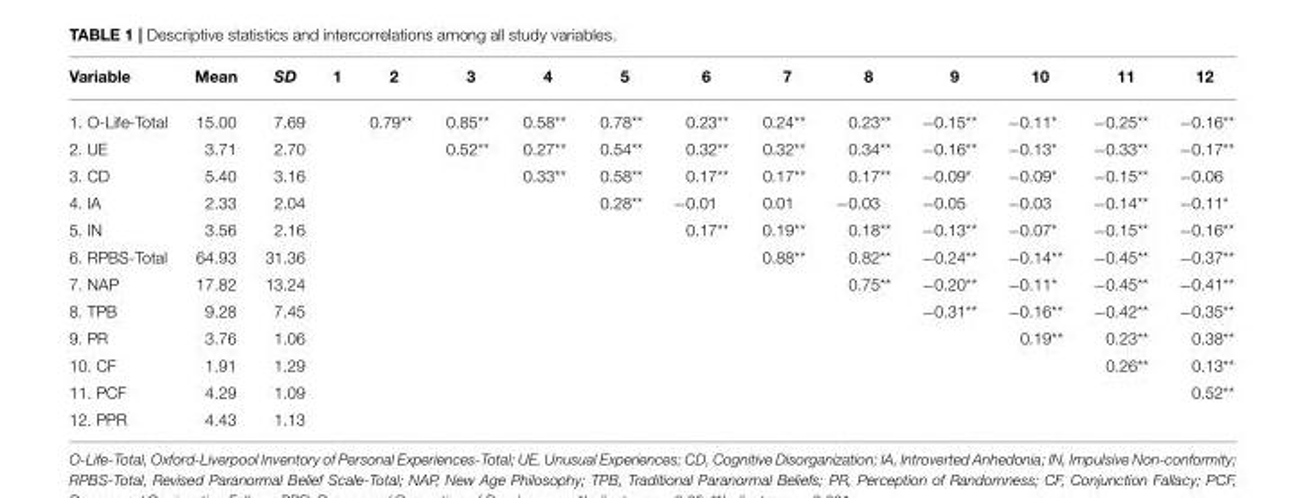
<table><thead><tr><td>Variable</td><td>Mean</td><td>SD</td><td>1</td><td>2</td><td>3</td><td>4</td><td>5</td><td>6</td><td>7</td><td>8</td><td>9</td><td>10</td><td>11</td><td>12</td></tr></thead><tbody><tr><td>1. O-Life-Total</td><td>15.00</td><td>7.69</td><td></td><td>0.79**</td><td>0.85**</td><td>0.58**</td><td>0.78**</td><td>0.23**</td><td>0.24**</td><td>0.23**</td><td>−0.15**</td><td>−0.11*</td><td>−0.25**</td><td>−0.16**</td></tr><tr><td>2. UE</td><td>3.71</td><td>2.70</td><td></td><td></td><td>0.52**</td><td>0.27**</td><td>0.54**</td><td>0.32**</td><td>0.32**</td><td>0.34**</td><td>−0.16**</td><td>−0.13*</td><td>−0.33**</td><td>−0.17**</td></tr><tr><td>3. CD</td><td>5.40</td><td>3.16</td><td></td><td></td><td></td><td>0.33**</td><td>0.58**</td><td>0.17**</td><td>0.17**</td><td>0.17**</td><td>−0.09*</td><td>−0.09*</td><td>−0.15**</td><td>−0.06</td></tr><tr><td>4. IA</td><td>2.33</td><td>2.04</td><td></td><td></td><td></td><td></td><td>0.28**</td><td>−0.01</td><td>0.01</td><td>−0.03</td><td>−0.05</td><td>−0.03</td><td>−0.14**</td><td>−0.11*</td></tr><tr><td>5. IN</td><td>3.56</td><td>2.16</td><td></td><td></td><td></td><td></td><td></td><td>0.17**</td><td>0.19**</td><td>0.18**</td><td>−0.13**</td><td>−0.07*</td><td>−0.15**</td><td>−0.16**</td></tr><tr><td>6. RPBS-Total</td><td>64.93</td><td>31.36</td><td></td><td></td><td></td><td></td><td></td><td></td><td>0.88**</td><td>0.82**</td><td>−0.24**</td><td>−0.14**</td><td>−0.45**</td><td>−0.37**</td></tr><tr><td>7. NAP</td><td>17.82</td><td>13.24</td><td></td><td></td><td></td><td></td><td></td><td></td><td></td><td>0.75**</td><td>−0.20**</td><td>−0.11*</td><td>−0.45**</td><td>−0.41**</td></tr><tr><td>8. TPB</td><td>9.28</td><td>7.45</td><td></td><td></td><td></td><td></td><td></td><td></td><td></td><td></td><td>−0.31**</td><td>−0.16**</td><td>−0.42**</td><td>−0.35**</td></tr><tr><td>9. PR</td><td>3.76</td><td>1.06</td><td></td><td></td><td></td><td></td><td></td><td></td><td></td><td></td><td></td><td>0.19**</td><td>0.23**</td><td>0.38**</td></tr><tr><td>10. CF</td><td>1.91</td><td>1.29</td><td></td><td></td><td></td><td></td><td></td><td></td><td></td><td></td><td></td><td></td><td>0.26**</td><td>0.13**</td></tr><tr><td>11. PCF</td><td>4.29</td><td>1.09</td><td></td><td></td><td></td><td></td><td></td><td></td><td></td><td></td><td></td><td></td><td></td><td>0.52**</td></tr><tr><td>12. PPR</td><td>4.43</td><td>1.13</td><td></td><td></td><td></td><td></td><td></td><td></td><td></td><td></td><td></td><td></td><td></td><td></td></tr></tbody></table>